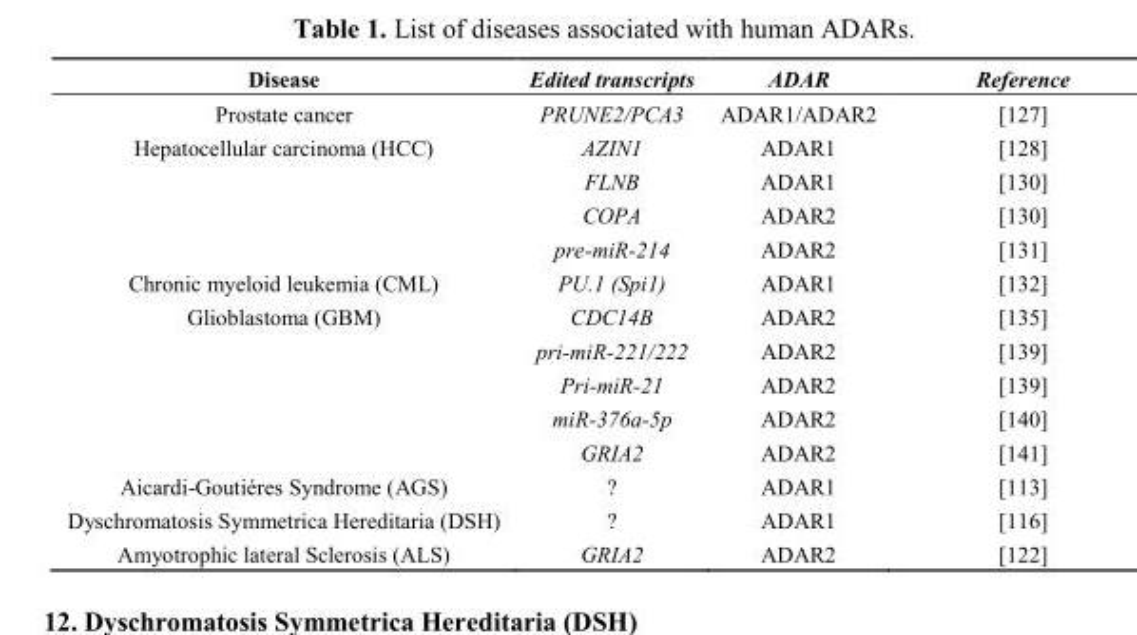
<table><thead><tr><td>Disease</td><td>Edited transcripts</td><td>ADAR</td><td>Reference</td></tr></thead><tbody><tr><td>Prostate cancer</td><td>PRUNE2/PCA3</td><td>ADAR1/ADAR2</td><td>[127]</td></tr><tr><td rowspan="4">Hepatocellular carcinoma (HCC)</td><td>AZIN1</td><td>ADAR1</td><td>[128]</td></tr><tr><td>FLNB</td><td>ADAR1</td><td>[130]</td></tr><tr><td>COPA</td><td>ADAR2</td><td>[130]</td></tr><tr><td>pre-miR-214</td><td>ADAR2</td><td>[131]</td></tr><tr><td>Chronic myeloid leukemia (CML)</td><td>PU.1 (Spi1)</td><td>ADAR1</td><td>[132]</td></tr><tr><td rowspan="5">Glioblastoma (GBM)</td><td>CDC14B</td><td>ADAR2</td><td>[135]</td></tr><tr><td>pri-miR-221/222</td><td>ADAR2</td><td>[139]</td></tr><tr><td>Pri-miR-21</td><td>ADAR2</td><td>[139]</td></tr><tr><td>miR-376a-5p</td><td>ADAR2</td><td>[140]</td></tr><tr><td>GRIA2</td><td>ADAR2</td><td>[141]</td></tr><tr><td>Aicardi-Goutiéres Syndrome (AGS)</td><td>?</td><td>ADAR1</td><td>[113]</td></tr><tr><td>Dyschromatosis Symmetrica Hereditaria (DSH)</td><td>?</td><td>ADAR1</td><td>[116]</td></tr><tr><td>Amyotrophic lateral Sclerosis (ALS)</td><td>GRIA2</td><td>ADAR2</td><td>[122]</td></tr></tbody></table>